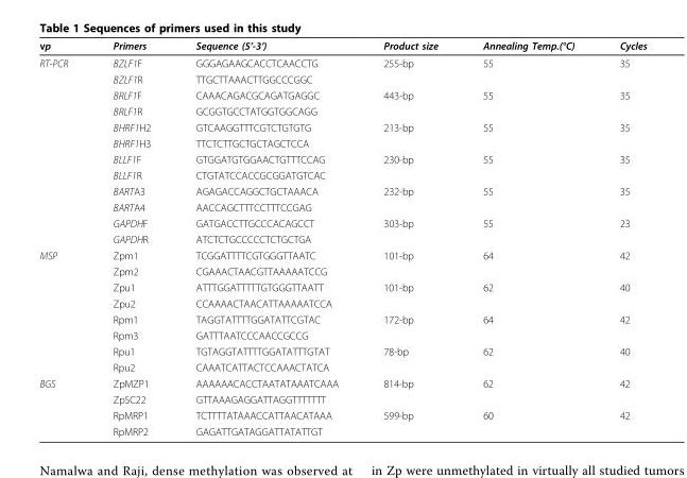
<table><thead><tr><td>vp</td><td>Primers</td><td>Sequence (5’-3’)</td><td>Product size</td><td>Annealing Temp.(°C)</td><td>Cycles</td></tr></thead><tbody><tr><td rowspan="12">RT-PCR</td><td>BZLF1F</td><td>GGGAGAAGCACCTCAACCTG</td><td>255-bp</td><td>55</td><td>35</td></tr><tr><td>BZLF1R</td><td>TTGCTTAAACTTGGCCCGGC</td><td></td><td></td><td></td></tr><tr><td>BRLF1F</td><td>CAAACAGACGCAGATGAGGC</td><td>443-bp</td><td>55</td><td>35</td></tr><tr><td>BRLF1R</td><td>GCGGTGCCTATGGTGGCAGG</td><td></td><td></td><td></td></tr><tr><td>BHRF1H2</td><td>GTCAAGGTTTCGTCTGTGTG</td><td>213-bp</td><td>55</td><td>35</td></tr><tr><td>BHRF1H3</td><td>TTCTCTTGCTGCTAGCTCCA</td><td></td><td></td><td></td></tr><tr><td>BLLF1F</td><td>GTGGATGTGGAACTGTTTCCAG</td><td>230-bp</td><td>55</td><td>35</td></tr><tr><td>BLLF1R</td><td>CTGTATCCACCGCGGATGTCAC</td><td></td><td></td><td></td></tr><tr><td>BARTA3</td><td>AGAGACCAGGCTGCTAAACA</td><td>232-bp</td><td>55</td><td>35</td></tr><tr><td>BARTA4</td><td>AACCAGCTTTCCTTTCCGAG</td><td></td><td></td><td></td></tr><tr><td>GAPDHF</td><td>GATGACCTTGCCCACAGCCT</td><td>303-bp</td><td>55</td><td>23</td></tr><tr><td>GAPDHR</td><td>ATCTCTGCCCCCTCTGCTGA</td><td></td><td></td><td></td></tr><tr><td rowspan="8">MSP</td><td>Zpm1</td><td>TCGGATTTTCGTGGGTTAATC</td><td>101-bp</td><td>64</td><td>42</td></tr><tr><td>Zpm2</td><td>CGAAACTAACGTTAAAAATCCG</td><td></td><td></td><td></td></tr><tr><td>Zpu1</td><td>ATTTGGATTTTTGTGGGTTAATT</td><td>101-bp</td><td>62</td><td>40</td></tr><tr><td>Zpu2</td><td>CCAAAACTAACATTAAAAATCCA</td><td></td><td></td><td></td></tr><tr><td>Rpm1</td><td>TAGGTATTTTGGATATTCGTAC</td><td>172-bp</td><td>64</td><td>42</td></tr><tr><td>Rpm3</td><td>GATTTAATCCCAACCGCCG</td><td></td><td></td><td></td></tr><tr><td>Rpu1</td><td>TGTAGGTATTTTGGATATTTGTAT</td><td>78-bp</td><td>62</td><td>40</td></tr><tr><td>Rpu2</td><td>CAAATCATTACTCCAAACTATCA</td><td></td><td></td><td></td></tr><tr><td rowspan="4">BGS</td><td>ZpMZP1</td><td>AAAAAACACCTAATATAAATCAAA</td><td>814-bp</td><td>62</td><td>42</td></tr><tr><td>ZpSC22</td><td>GTTAAAGAGGATTAGGTTTTTTT</td><td></td><td></td><td></td></tr><tr><td>RpMRP1</td><td>TCTTTTATAAACCATTAACATAAA</td><td>599-bp</td><td>60</td><td>42</td></tr><tr><td>RpMRP2</td><td>GAGATTGATAGGATTATATTGT</td><td></td><td></td><td></td></tr></tbody></table>